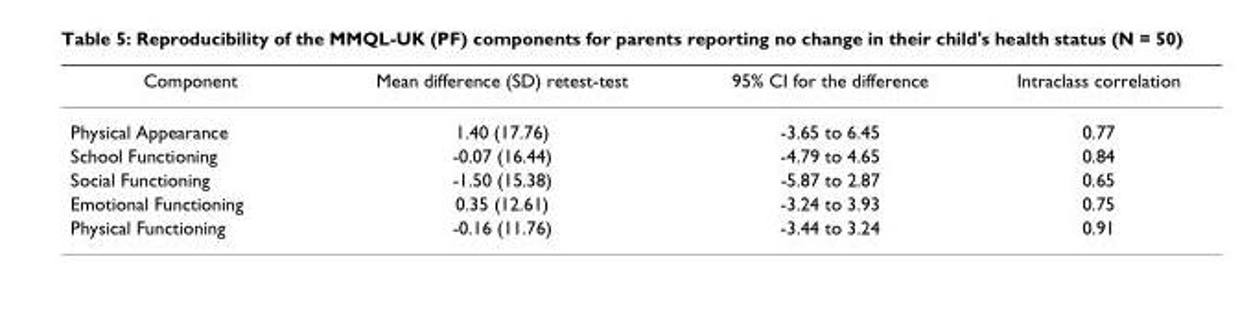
<table><thead><tr><td>Component</td><td>Mean difference (SD) retest-test</td><td>95% CI for the difference</td><td>Intraclass correlation</td></tr></thead><tbody><tr><td>Physical Appearance</td><td>1.40 (17.76)</td><td>-3.65 to 6.45</td><td>0.77</td></tr><tr><td>School Functioning</td><td>-0.07 (16.44)</td><td>-4.79 to 4.65</td><td>0.84</td></tr><tr><td>Social Functioning</td><td>-1.50 (15.38)</td><td>-5.87 to 2.87</td><td>0.65</td></tr><tr><td>Emotional Functioning</td><td>0.35 (12.61)</td><td>-3.24 to 3.93</td><td>0.75</td></tr><tr><td>Physical Functioning</td><td>-0.16 (11.76)</td><td>-3.44 to 3.24</td><td>0.91</td></tr></tbody></table>